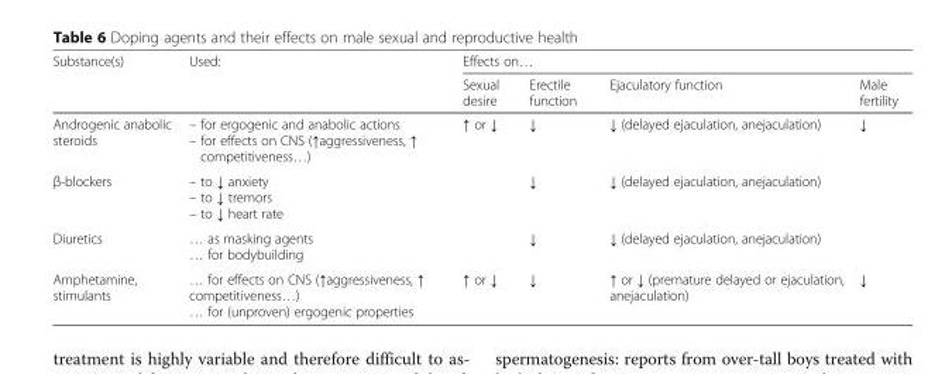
<table><thead><tr><td rowspan="2">Substance(s)</td><td rowspan="2">Used:</td><td colspan="4">Effects on…</td></tr><tr><td>Sexual desire</td><td>Erectile function</td><td>Ejaculatory function</td><td>Male fertility</td></tr></thead><tbody><tr><td>Androgenic anabolic steroids</td><td>– for ergogenic and anabolic actions – for effects on CNS (↑aggressiveness, ↑ competitiveness…)</td><td>↑ or ↓</td><td>↓</td><td>↓ (delayed ejaculation, anejaculation)</td><td>↓</td></tr><tr><td>β-blockers</td><td>– to ↓ anxiety – to ↓ tremors – to ↓ heart rate</td><td></td><td>↓</td><td>↓ (delayed ejaculation, anejaculation)</td><td></td></tr><tr><td>Diuretics</td><td>… as masking agents … for bodybuilding</td><td></td><td>↓</td><td>↓ (delayed ejaculation, anejaculation)</td><td></td></tr><tr><td>Amphetamine, stimulants</td><td>… for effects on CNS (↑aggressiveness, ↑ competitiveness…) … for (unproven) ergogenic properties</td><td>↑ or ↓</td><td>↓</td><td>↑ or ↓ (premature delayed or ejaculation, anejaculation)</td><td>↓</td></tr></tbody></table>